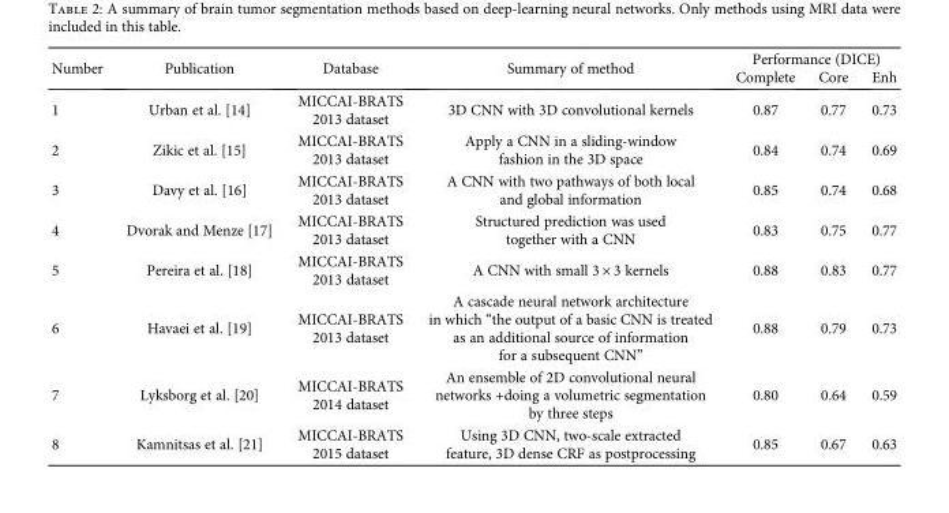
<table><thead><tr><td rowspan="2">Number</td><td rowspan="2">Publication</td><td rowspan="2">Database</td><td rowspan="2">Summary of method</td><td colspan="3">Performance (DICE)</td></tr><tr><td>Complete</td><td>Core</td><td>Enh</td></tr></thead><tbody><tr><td>1</td><td>Urban et al. [14]</td><td>MICCAI-BRATS 2013 dataset</td><td>3D CNN with 3D convolutional kernels</td><td>0.87</td><td>0.77</td><td>0.73</td></tr><tr><td>2</td><td>Zikic et al. [15]</td><td>MICCAI-BRATS 2013 dataset</td><td>Apply a CNN in a sliding-window fashion in the 3D space</td><td>0.84</td><td>0.74</td><td>0.69</td></tr><tr><td>3</td><td>Davy et al. [16]</td><td>MICCAI-BRATS 2013 dataset</td><td>A CNN with two pathways of both local and global information</td><td>0.85</td><td>0.74</td><td>0.68</td></tr><tr><td>4</td><td>Dvorak and Menze [17]</td><td>MICCAI-BRATS 2013 dataset</td><td>Structured prediction was used together with a CNN</td><td>0.83</td><td>0.75</td><td>0.77</td></tr><tr><td>5</td><td>Pereira et al. [18]</td><td>MICCAI-BRATS 2013 dataset</td><td>A CNN with small 3 × 3 kernels</td><td>0.88</td><td>0.83</td><td>0.77</td></tr><tr><td>6</td><td>Havaei et al. [19]</td><td>MICCAI-BRATS 2013 dataset</td><td>A cascade neural network architecture in which “the output of a basic CNN is treated as an additional source of information for a subsequent CNN”</td><td>0.88</td><td>0.79</td><td>0.73</td></tr><tr><td>7</td><td>Lyksborg et al. [20]</td><td>MICCAI-BRATS 2014 dataset</td><td>An ensemble of 2D convolutional neural networks +doing a volumetric segmentation by three steps</td><td>0.80</td><td>0.64</td><td>0.59</td></tr><tr><td>8</td><td>Kamnitsas et al. [21]</td><td>MICCAI-BRATS 2015 dataset</td><td>Using 3D CNN, two-scale extracted feature, 3D dense CRF as postprocessing</td><td>0.85</td><td>0.67</td><td>0.63</td></tr></tbody></table>